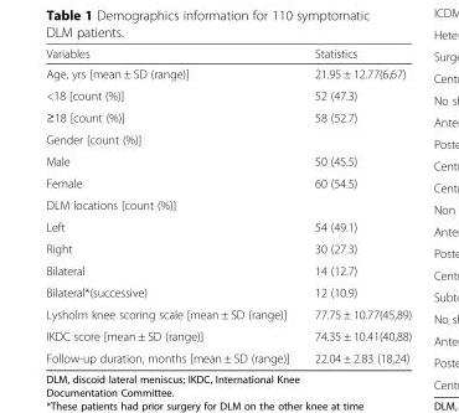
<table><thead><tr><td>Variables</td><td>Statistics</td></tr></thead><tbody><tr><td>Age, yrs [mean ± SD (range)]</td><td>21.95 ± 12.77(6,67)</td></tr><tr><td>&lt;18 [count (%)]</td><td>52 (47.3)</td></tr><tr><td>≥18 [count (%)]</td><td>58 (52.7)</td></tr><tr><td colspan="2">Gender [count (%)]</td></tr><tr><td>Male</td><td>50 (45.5)</td></tr><tr><td>Female</td><td>60 (54.5)</td></tr><tr><td colspan="2">DLM locations [count (%)]</td></tr><tr><td>Left</td><td>54 (49.1)</td></tr><tr><td>Right</td><td>30 (27.3)</td></tr><tr><td>Bilateral</td><td>14 (12.7)</td></tr><tr><td>Bilateral*(successive)</td><td>12 (10.9)</td></tr><tr><td>Lysholm knee scoring scale [mean ± SD (range)]</td><td>77.75 ± 10.77(45,89)</td></tr><tr><td>IKDC score [mean ± SD (range)]</td><td>74.35 ± 10.41(40,88)</td></tr><tr><td>Follow-up duration, months [mean ± SD (range)]</td><td>22.04 ± 2.83 (18,24)</td></tr></tbody></table>